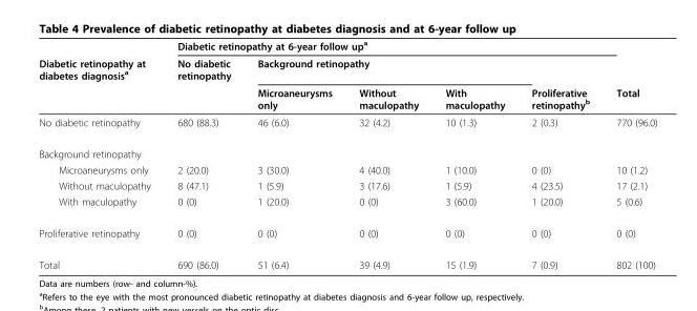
<table><thead><tr><td rowspan="3">Diabetic retinopathy at diabetes diagnosis<sup>a</sup></td><td colspan="5">Diabetic retinopathy at 6-year follow up<sup>a</sup></td><td rowspan="3">Total</td></tr><tr><td rowspan="2">No diabetic retinopathy</td><td colspan="3">Background retinopathy</td><td rowspan="2">Proliferative retinopathy<sup>b</sup></td></tr><tr><td>Microaneurysms only</td><td>Without maculopathy</td><td>With maculopathy</td></tr></thead><tbody><tr><td>No diabetic retinopathy</td><td>680 (88.3)</td><td>46 (6.0)</td><td>32 (4.2)</td><td>10 (1.3)</td><td>2 (0.3)</td><td>770 (96.0)</td></tr><tr><td colspan="7">Background retinopathy</td></tr><tr><td>Microaneurysms only</td><td>2 (20.0)</td><td>3 (30.0)</td><td>4 (40.0)</td><td>1 (10.0)</td><td>0 (0)</td><td>10 (1.2)</td></tr><tr><td>Without maculopathy</td><td>8 (47.1)</td><td>1 (5.9)</td><td>3 (17.6)</td><td>1 (5.9)</td><td>4 (23.5)</td><td>17 (2.1)</td></tr><tr><td>With maculopathy</td><td>0 (0)</td><td>1 (20.0)</td><td>0 (0)</td><td>3 (60.0)</td><td>1 (20.0)</td><td>5 (0.6)</td></tr><tr><td>Proliferative retinopathy</td><td>0 (0)</td><td>0 (0)</td><td>0 (0)</td><td>0 (0)</td><td>0 (0)</td><td>0 (0)</td></tr><tr><td>Total</td><td>690 (86.0)</td><td>51 (6.4)</td><td>39 (4.9)</td><td>15 (1.9)</td><td>7 (0.9)</td><td>802 (100)</td></tr></tbody></table>